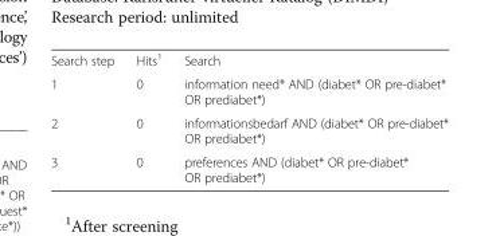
<table><tbody><tr><td>Search step</td><td>Hits<sup>1</sup></td><td>Search</td></tr><tr><td>1</td><td>0</td><td>information need* AND (diabet* OR pre-diabet* OR prediabet*)</td></tr><tr><td>2</td><td>0</td><td>informationsbedarf AND (diabet* OR pre-diabet* OR prediabet*)</td></tr><tr><td>3</td><td>0</td><td>preferences AND (diabet* OR pre-diabet* OR prediabet*)</td></tr></tbody></table>